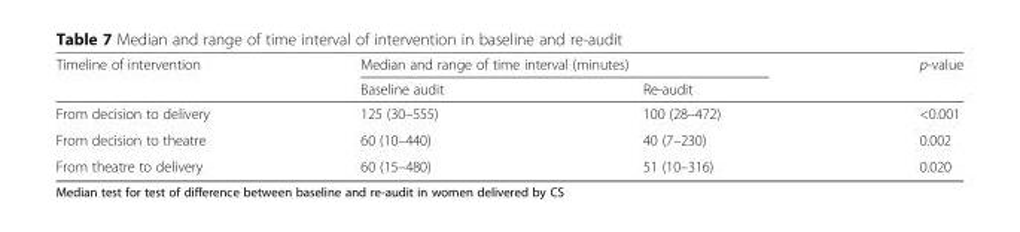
<table><thead><tr><td rowspan="2">Timeline of intervention</td><td colspan="2">Median and range of time interval (minutes)</td><td rowspan="2">p-value</td></tr><tr><td>Baseline audit</td><td>Re-audit</td></tr></thead><tbody><tr><td>From decision to delivery</td><td>125 (30–555)</td><td>100 (28–472)</td><td>&lt;0.001</td></tr><tr><td>From decision to theatre</td><td>60 (10–440)</td><td>40 (7–230)</td><td>0.002</td></tr><tr><td>From theatre to delivery</td><td>60 (15–480)</td><td>51 (10–316)</td><td>0.020</td></tr></tbody></table>